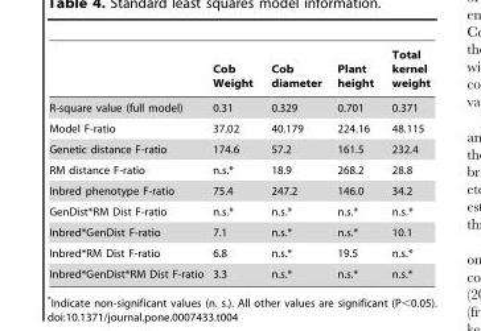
<table><thead><tr><td></td><td>Cob Weight</td><td>Cob diameter</td><td>Plant height</td><td>Total kernel weight</td></tr></thead><tbody><tr><td>R-square value (full model)</td><td>0.31</td><td>0.329</td><td>0.701</td><td>0.371</td></tr><tr><td>Model F-ratio</td><td>37.02</td><td>40.179</td><td>224.16</td><td>48.115</td></tr><tr><td>Genetic distance F-ratio</td><td>174.6</td><td>57.2</td><td>161.5</td><td>232.4</td></tr><tr><td>RM distance F-ratio</td><td>n.s.*</td><td>18.9</td><td>268.2</td><td>28.8</td></tr><tr><td>Inbred phenotype F-ratio</td><td>75.4</td><td>247.2</td><td>146.0</td><td>34.2</td></tr><tr><td>GenDist*RM Dist F-ratio</td><td>n.s.*</td><td>n.s.*</td><td>n.s.*</td><td>n.s.*</td></tr><tr><td>Inbred*GenDist F-ratio</td><td>7.1</td><td>n.s.*</td><td>n.s.*</td><td>10.1</td></tr><tr><td>Inbred*RM Dist F-ratio</td><td>6.8</td><td>n.s.*</td><td>19.5</td><td>n.s.*</td></tr><tr><td>Inbred*GenDist*RM Dist F-ratio</td><td>3.3</td><td>n.s.*</td><td>n.s.*</td><td>n.s.*</td></tr></tbody></table>